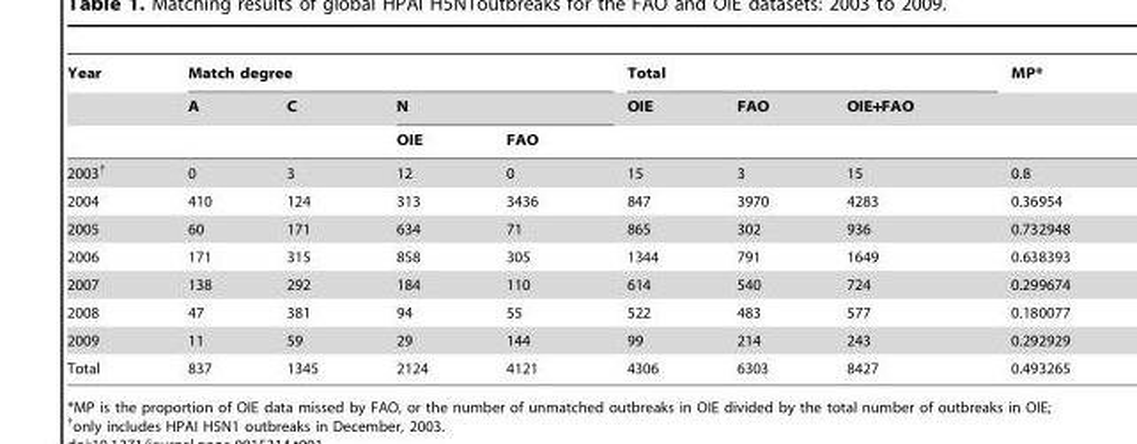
<table><thead><tr><td rowspan="3">Year</td><td colspan="4">Match degree</td><td colspan="3">Total</td><td rowspan="3">MP*</td></tr><tr><td rowspan="2">A</td><td rowspan="2">C</td><td colspan="2">N</td><td rowspan="2">OIE</td><td rowspan="2">FAO</td><td rowspan="2">OIE+FAO</td></tr><tr><td>OIE</td><td>FAO</td></tr></thead><tbody><tr><td>2003†</td><td>0</td><td>3</td><td>12</td><td>0</td><td>15</td><td>3</td><td>15</td><td>0.8</td></tr><tr><td>2004</td><td>410</td><td>124</td><td>313</td><td>3436</td><td>847</td><td>3970</td><td>4283</td><td>0.36954</td></tr><tr><td>2005</td><td>60</td><td>171</td><td>634</td><td>71</td><td>865</td><td>302</td><td>936</td><td>0.732948</td></tr><tr><td>2006</td><td>171</td><td>315</td><td>858</td><td>305</td><td>1344</td><td>791</td><td>1649</td><td>0.638393</td></tr><tr><td>2007</td><td>138</td><td>292</td><td>184</td><td>110</td><td>614</td><td>540</td><td>724</td><td>0.299674</td></tr><tr><td>2008</td><td>47</td><td>381</td><td>94</td><td>55</td><td>522</td><td>483</td><td>577</td><td>0.180077</td></tr><tr><td>2009</td><td>11</td><td>59</td><td>29</td><td>144</td><td>99</td><td>214</td><td>243</td><td>0.292929</td></tr><tr><td>Total</td><td>837</td><td>1345</td><td>2124</td><td>4121</td><td>4306</td><td>6303</td><td>8427</td><td>0.493265</td></tr></tbody></table>